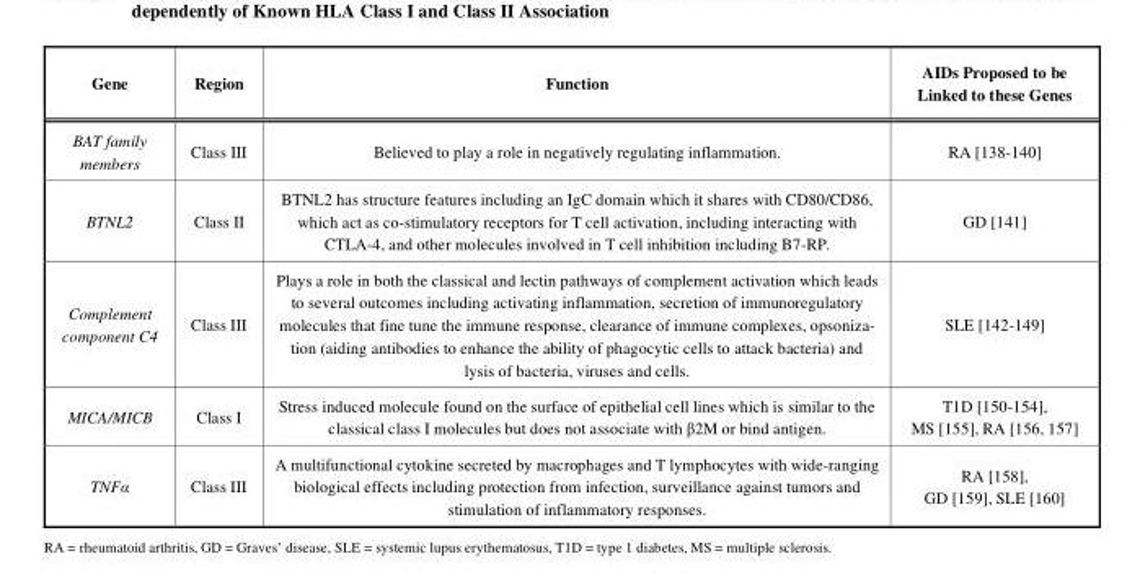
<table><thead><tr><td>Gene</td><td>Region</td><td>Function</td><td>AIDs Proposed to be Linked to these Genes</td></tr></thead><tbody><tr><td>BAT family members</td><td>Class III</td><td>Believed to play a role in negatively regulating inflammation.</td><td>RA [138-140]</td></tr><tr><td>BTNL2</td><td>Class II</td><td>BTNL2 has structure features including an IgC domain which it shares with CD80/CD86, which act as co-stimulatory receptors for T cell activation, including interacting with CTLA-4, and other molecules involved in T cell inhibition including B7-RP.</td><td>GD [141]</td></tr><tr><td>Complement component C4</td><td>Class III</td><td>Plays a role in both the classical and lectin pathways of complement activation which leads to several outcomes including activating inflammation, secretion of immunoregulatory molecules that fine tune the immune response, clearance of immune complexes, opsoniza- tion (aiding antibodies to enhance the ability of phagocytic cells to attack bacteria) and lysis of bacteria, viruses and cells.</td><td>SLE [142-149]</td></tr><tr><td>MICA/MICB</td><td>Class I</td><td>Stress induced molecule found on the surface of epithelial cell lines which is similar to the classical class I molecules but does not associate with β2M or bind antigen.</td><td>T1D [150-154], MS [155], RA [156, 157]</td></tr><tr><td>TNFα</td><td>Class III</td><td>A multifunctional cytokine secreted by macrophages and T lymphocytes with wide-ranging biological effects including protection from infection, surveillance against tumors and stimulation of inflammatory responses.</td><td>RA [158], GD [159], SLE [160]</td></tr></tbody></table>